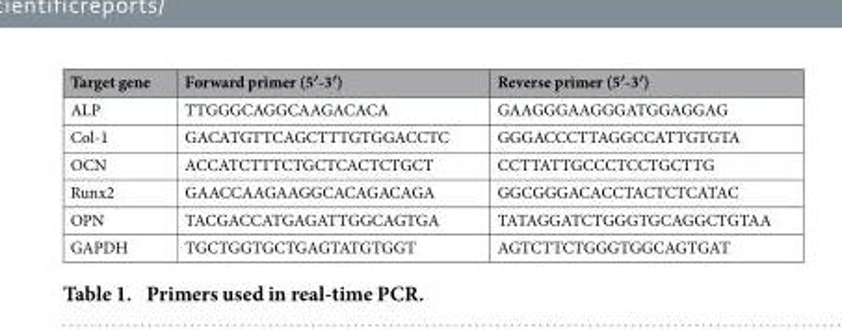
<table><thead><tr><td>Target gene</td><td>Forward primer (5′-3′)</td><td>Reverse primer (5′-3′)</td></tr></thead><tbody><tr><td>ALP</td><td>TTGGGCAGGCAAGACACA</td><td>GAAGGGAAGGGATGGAGGAG</td></tr><tr><td>Col-1</td><td>GACATGTTCAGCTTTGTGGACCTC</td><td>GGGACCCTTAGGCCATTGTGTA</td></tr><tr><td>OCN</td><td>ACCATCTTTCTGCTCACTCTGCT</td><td>CCTTATTGCCCTCCTGCTTG</td></tr><tr><td>Runx2</td><td>GAACCAAGAAGGCACAGACAGA</td><td>GGCGGGACACCTACTCTCATAC</td></tr><tr><td>OPN</td><td>TACGACCATGAGATTGGCAGTGA</td><td>TATAGGATCTGGGTGCAGGCTGTAA</td></tr><tr><td>GAPDH</td><td>TGCTGGTGCTGAGTATGTGGT</td><td>AGTCTTCTGGGTGGCAGTGAT</td></tr></tbody></table>